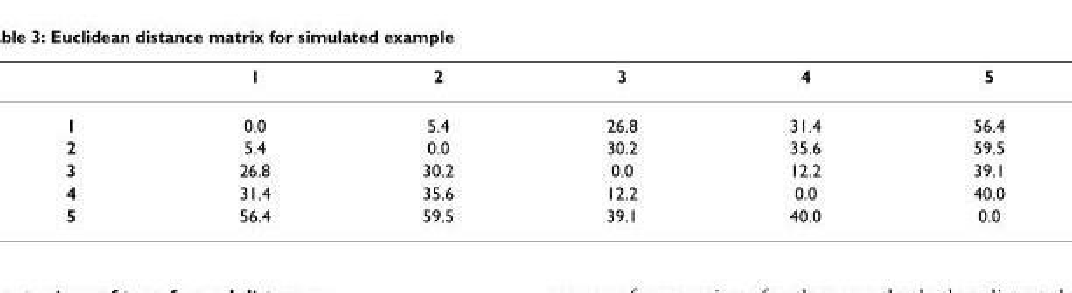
<table><thead><tr><td></td><td>1</td><td>2</td><td>3</td><td>4</td><td>5</td></tr></thead><tbody><tr><td>1</td><td>0.0</td><td>5.4</td><td>26.8</td><td>31.4</td><td>56.4</td></tr><tr><td>2</td><td>5.4</td><td>0.0</td><td>30.2</td><td>35.6</td><td>59.5</td></tr><tr><td>3</td><td>26.8</td><td>30.2</td><td>0.0</td><td>12.2</td><td>39.1</td></tr><tr><td>4</td><td>31.4</td><td>35.6</td><td>12.2</td><td>0.0</td><td>40.0</td></tr><tr><td>5</td><td>56.4</td><td>59.5</td><td>39.1</td><td>40.0</td><td>0.0</td></tr></tbody></table>